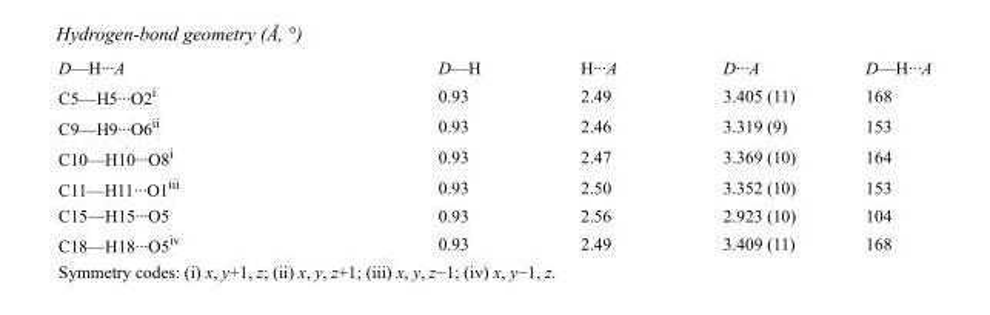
<table><tbody><tr><td>D—H···A</td><td>D—H</td><td>H···A</td><td>D···A</td><td>D—H···A</td></tr><tr><td>C5—H5···O2<sup>i</sup></td><td>0.93</td><td>2.49</td><td>3.405 (11)</td><td>168</td></tr><tr><td>C9—H9···O6<sup>ii</sup></td><td>0.93</td><td>2.46</td><td>3.319 (9)</td><td>153</td></tr><tr><td>C10—H10···O8<sup>i</sup></td><td>0.93</td><td>2.47</td><td>3.369 (10)</td><td>164</td></tr><tr><td>C11—H11···O1<sup>iii</sup></td><td>0.93</td><td>2.50</td><td>3.352 (10)</td><td>153</td></tr><tr><td>C15—H15···O5</td><td>0.93</td><td>2.56</td><td>2.923 (10)</td><td>104</td></tr><tr><td>C18—H18···O5<sup>iv</sup></td><td>0.93</td><td>2.49</td><td>3.409 (11)</td><td>168</td></tr></tbody></table>